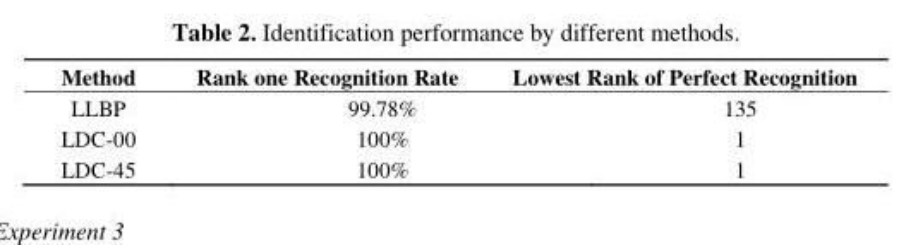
<table><thead><tr><td>Method</td><td>Rank one Recognition Rate</td><td>Lowest Rank of Perfect Recognition</td></tr></thead><tbody><tr><td>LLBP</td><td>99.78%</td><td>135</td></tr><tr><td>LDC-00</td><td>100%</td><td>1</td></tr><tr><td>LDC-45</td><td>100%</td><td>1</td></tr></tbody></table>